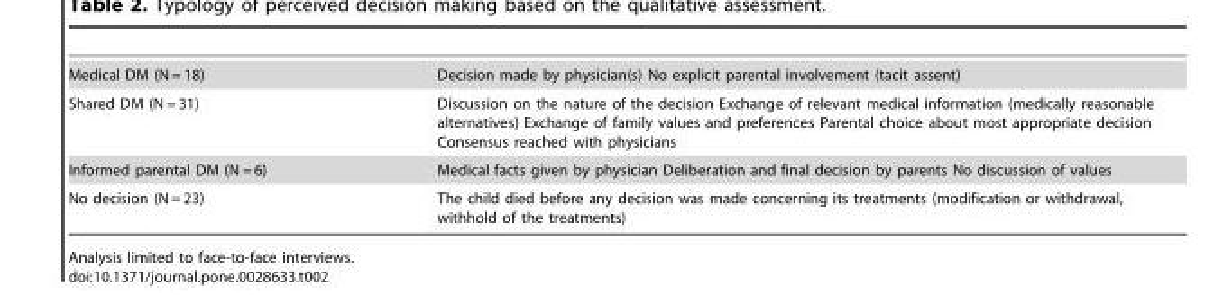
<table><tbody><tr><td>Medical DM (N = 18)</td><td>Decision made by physician(s) No explicit parental involvement (tacit assent)</td></tr><tr><td>Shared DM (N = 31)</td><td>Discussion on the nature of the decision Exchange of relevant medical information (medically reasonable alternatives) Exchange of family values and preferences Parental choice about most appropriate decision Consensus reached with physicians</td></tr><tr><td>Informed parental DM (N = 6)</td><td>Medical facts given by physician Deliberation and final decision by parents No discussion of values</td></tr><tr><td>No decision (N = 23)</td><td>The child died before any decision was made concerning its treatments (modification or withdrawal, withhold of the treatments)</td></tr></tbody></table>